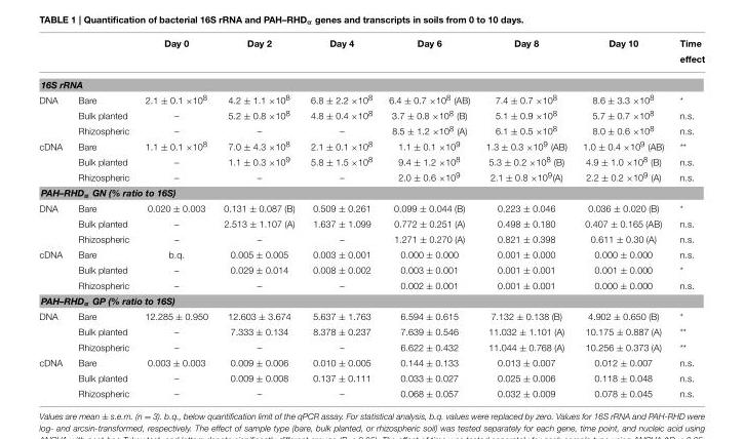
<table><thead><tr><td></td><td></td><td>Day 0</td><td>Day 2</td><td>Day 4</td><td>Day 6</td><td>Day 8</td><td>Day 10</td><td>Time effect</td></tr></thead><tbody><tr><td colspan="9">16S rRNA</td></tr><tr><td rowspan="3">DNA</td><td>Bare</td><td>2.1 ± 0.1 ×10<sup>8</sup></td><td>4.2 ± 1.1 ×10<sup>8</sup></td><td>6.8 ± 2.2 ×10<sup>8</sup></td><td>6.4 ± 0.7 ×10<sup>8</sup> (AB)</td><td>7.4 ± 0.7 ×10<sup>8</sup></td><td>8.6 ± 3.3 ×10<sup>8</sup></td><td>*</td></tr><tr><td>Bulk planted</td><td>–</td><td>5.2 ± 0.8 ×10<sup>8</sup></td><td>4.8 ± 0.4 ×10<sup>8</sup></td><td>3.7 ± 0.8 ×10<sup>8</sup> (B)</td><td>5.1 ± 0.9 ×10<sup>8</sup></td><td>5.7 ± 0.7 ×10<sup>8</sup></td><td>n.s.</td></tr><tr><td>Rhizospheric</td><td>–</td><td>–</td><td>–</td><td>8.5 ± 1.2 ×10<sup>8</sup> (A)</td><td>6.1 ± 0.5 ×10<sup>8</sup></td><td>8.0 ± 0.6 ×10<sup>8</sup></td><td>n.s.</td></tr><tr><td rowspan="3">cDNA</td><td>Bare</td><td>1.1 ± 0.1 ×10<sup>8</sup></td><td>7.0 ± 4.3 ×10<sup>8</sup></td><td>2.1 ± 0.1 ×10<sup>8</sup></td><td>1.1 ± 0.1 ×10<sup>9</sup></td><td>1.3 ± 0.3 ×10<sup>9</sup> (AB)</td><td>1.0 ± 0.4 ×10<sup>9</sup> (AB)</td><td>**</td></tr><tr><td>Bulk planted</td><td>–</td><td>1.1 ± 0.3 ×10<sup>9</sup></td><td>5.8 ± 1.5 ×10<sup>8</sup></td><td>9.4 ± 1.2 ×10<sup>8</sup></td><td>5.3 ± 0.2 ×10<sup>8</sup> (B)</td><td>4.9 ± 1.0 ×10<sup>8</sup> (B)</td><td>n.s.</td></tr><tr><td>Rhizospheric</td><td>–</td><td>–</td><td>–</td><td>2.0 ± 0.6 ×10<sup>9</sup></td><td>2.1 ± 0.8 ×10<sup>9</sup>(A)</td><td>2.2 ± 0.2 ×10<sup>9</sup> (A)</td><td>n.s.</td></tr><tr><td colspan="9">PAH–RHD<sub>α</sub> GN (% ratio to 16S)</td></tr><tr><td rowspan="3">DNA</td><td>Bare</td><td>0.020 ± 0.003</td><td>0.131 ± 0.087 (B)</td><td>0.509 ± 0.261</td><td>0.099 ± 0.044 (B)</td><td>0.223 ± 0.046</td><td>0.036 ± 0.020 (B)</td><td>*</td></tr><tr><td>Bulk planted</td><td>–</td><td>2.513 ± 1.107 (A)</td><td>1.637 ± 1.099</td><td>0.772 ± 0.251 (A)</td><td>0.498 ± 0.180</td><td>0.407 ± 0.165 (AB)</td><td>n.s.</td></tr><tr><td>Rhizospheric</td><td>–</td><td>–</td><td>–</td><td>1.271 ± 0.270 (A)</td><td>0.821 ± 0.398</td><td>0.611 ± 0.30 (A)</td><td>n.s.</td></tr><tr><td rowspan="3">cDNA</td><td>Bare</td><td>b.q.</td><td>0.005 ± 0.005</td><td>0.003 ± 0.001</td><td>0.000 ± 0.000</td><td>0.001 ± 0.000</td><td>0.000 ± 0.000</td><td>n.s.</td></tr><tr><td>Bulk planted</td><td>–</td><td>0.029 ± 0.014</td><td>0.008 ± 0.002</td><td>0.003 ± 0.001</td><td>0.001 ± 0.001</td><td>0.001 ± 0.000</td><td>*</td></tr><tr><td>Rhizospheric</td><td>–</td><td>–</td><td>–</td><td>0.002 ± 0.001</td><td>0.001 ± 0.001</td><td>0.000 ± 0.000</td><td>n.s.</td></tr><tr><td colspan="9">PAH–RHD<sub>α</sub> GP (% ratio to 16S)</td></tr><tr><td rowspan="3">DNA</td><td>Bare</td><td>12.285 ± 0.950</td><td>12.603 ± 3.674</td><td>5.637 ± 1.763</td><td>6.594 ± 0.615</td><td>7.132 ± 0.138 (B)</td><td>4.902 ± 0.650 (B)</td><td>*</td></tr><tr><td>Bulk planted</td><td>–</td><td>7.333 ± 0.134</td><td>8.378 ± 0.237</td><td>7.639 ± 0.546</td><td>11.032 ± 1.101 (A)</td><td>10.175 ± 0.887 (A)</td><td>**</td></tr><tr><td>Rhizospheric</td><td>–</td><td>–</td><td>–</td><td>6.622 ± 0.432</td><td>11.044 ± 0.768 (A)</td><td>10.256 ± 0.373 (A)</td><td>**</td></tr><tr><td rowspan="3">cDNA</td><td>Bare</td><td>0.003 ± 0.003</td><td>0.009 ± 0.006</td><td>0.010 ± 0.005</td><td>0.144 ± 0.133</td><td>0.013 ± 0.007</td><td>0.012 ± 0.007</td><td>n.s.</td></tr><tr><td>Bulk planted</td><td>–</td><td>0.009 ± 0.008</td><td>0.137 ± 0.111</td><td>0.033 ± 0.027</td><td>0.025 ± 0.006</td><td>0.118 ± 0.048</td><td>n.s.</td></tr><tr><td>Rhizospheric</td><td>–</td><td>–</td><td>–</td><td>0.068 ± 0.057</td><td>0.032 ± 0.009</td><td>0.078 ± 0.045</td><td>n.s.</td></tr></tbody></table>